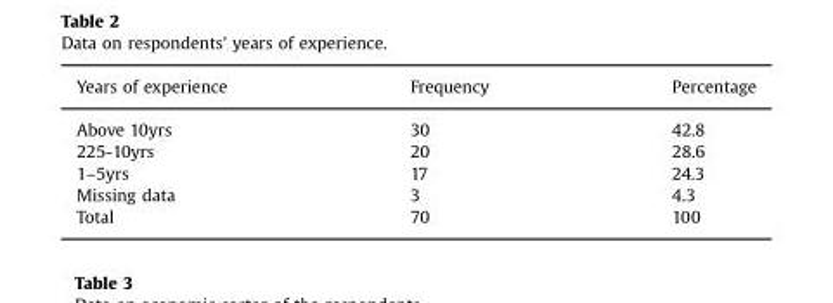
<table><thead><tr><td>Years of experience</td><td>Frequency</td><td>Percentage</td></tr></thead><tbody><tr><td>Above 10yrs</td><td>30</td><td>42.8</td></tr><tr><td>225-10yrs</td><td>20</td><td>28.6</td></tr><tr><td>1–5yrs</td><td>17</td><td>24.3</td></tr><tr><td>Missing data</td><td>3</td><td>4.3</td></tr><tr><td>Total</td><td>70</td><td>100</td></tr></tbody></table>